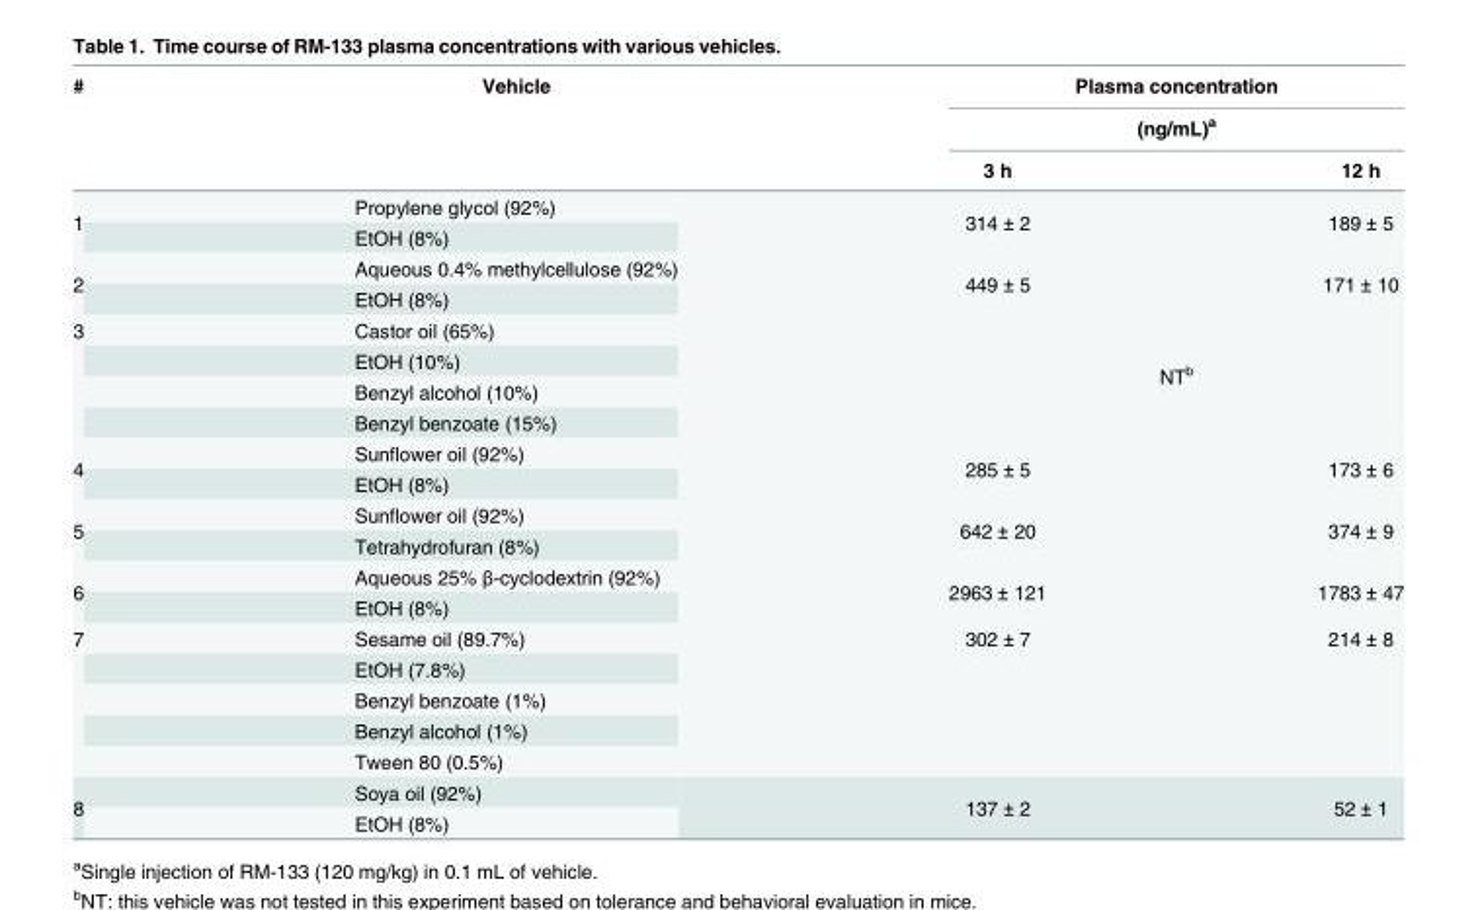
<table><thead><tr><td rowspan="3">#</td><td rowspan="3">Vehicle</td><td rowspan="2" colspan="2">Plasma concentration (ng/mL)<sup>a</sup></td></tr><tr></tr><tr><td>3 h</td><td>12 h</td></tr></thead><tbody><tr><td rowspan="2">1</td><td>Propylene glycol (92%)</td><td rowspan="2">314 ± 2</td><td rowspan="2">189 ± 5</td></tr><tr><td>EtOH (8%)</td></tr><tr><td rowspan="2">2</td><td>Aqueous 0.4% methylcellulose (92%)</td><td rowspan="2">449 ± 5</td><td rowspan="2">171 ± 10</td></tr><tr><td>EtOH (8%)</td></tr><tr><td rowspan="4">3</td><td>Castor oil (65%)</td><td rowspan="4" colspan="2">NT<sup>b</sup></td></tr><tr><td>EtOH (10%)</td></tr><tr><td>Benzyl alcohol (10%)</td></tr><tr><td>Benzyl benzoate (15%)</td></tr><tr><td rowspan="2">4</td><td>Sunflower oil (92%)</td><td rowspan="2">285 ± 5</td><td rowspan="2">173 ± 6</td></tr><tr><td>EtOH (8%)</td></tr><tr><td rowspan="2">5</td><td>Sunflower oil (92%)</td><td rowspan="2">642 ± 20</td><td rowspan="2">374 ± 9</td></tr><tr><td>Tetrahydrofuran (8%)</td></tr><tr><td rowspan="2">6</td><td>Aqueous 25% β-cyclodextrin (92%)</td><td rowspan="2">2963 ± 121</td><td rowspan="2">1783 ± 47</td></tr><tr><td>EtOH (8%)</td></tr><tr><td rowspan="5">7</td><td>Sesame oil (89.7%)</td><td rowspan="5">302 ± 7</td><td rowspan="5">214 ± 8</td></tr><tr><td>EtOH (7.8%)</td></tr><tr><td>Benzyl benzoate (1%)</td></tr><tr><td>Benzyl alcohol (1%)</td></tr><tr><td>Tween 80 (0.5%)</td></tr><tr><td rowspan="2">8</td><td>Soya oil (92%)</td><td rowspan="2">137 ± 2</td><td rowspan="2">52 ± 1</td></tr><tr><td>EtOH (8%)</td></tr></tbody></table>